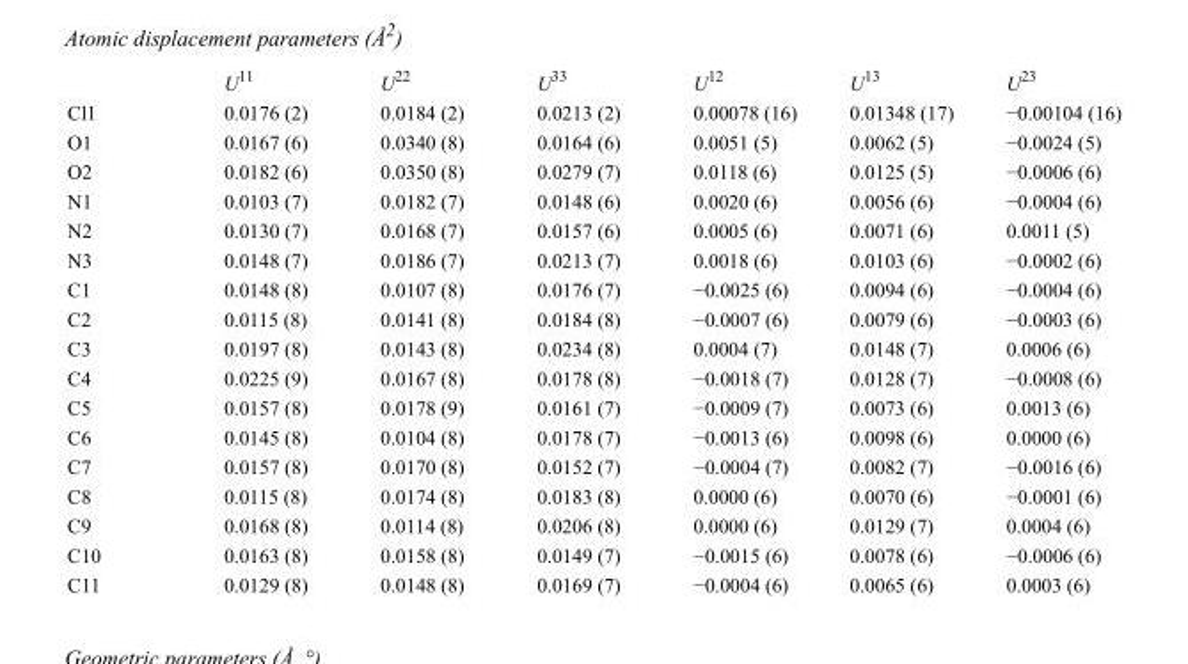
<table><thead><tr><td></td><td>U<sup>11</sup></td><td>U<sup>22</sup></td><td>U<sup>33</sup></td><td>U<sup>12</sup></td><td>U<sup>13</sup></td><td>U<sup>23</sup></td></tr></thead><tbody><tr><td>Cl1</td><td>0.0176 (2)</td><td>0.0184 (2)</td><td>0.0213 (2)</td><td>0.00078 (16)</td><td>0.01348 (17)</td><td>−0.00104 (16)</td></tr><tr><td>O1</td><td>0.0167 (6)</td><td>0.0340 (8)</td><td>0.0164 (6)</td><td>0.0051 (5)</td><td>0.0062 (5)</td><td>−0.0024 (5)</td></tr><tr><td>O2</td><td>0.0182 (6)</td><td>0.0350 (8)</td><td>0.0279 (7)</td><td>0.0118 (6)</td><td>0.0125 (5)</td><td>−0.0006 (6)</td></tr><tr><td>N1</td><td>0.0103 (7)</td><td>0.0182 (7)</td><td>0.0148 (6)</td><td>0.0020 (6)</td><td>0.0056 (6)</td><td>−0.0004 (6)</td></tr><tr><td>N2</td><td>0.0130 (7)</td><td>0.0168 (7)</td><td>0.0157 (6)</td><td>0.0005 (6)</td><td>0.0071 (6)</td><td>0.0011 (5)</td></tr><tr><td>N3</td><td>0.0148 (7)</td><td>0.0186 (7)</td><td>0.0213 (7)</td><td>0.0018 (6)</td><td>0.0103 (6)</td><td>−0.0002 (6)</td></tr><tr><td>C1</td><td>0.0148 (8)</td><td>0.0107 (8)</td><td>0.0176 (7)</td><td>−0.0025 (6)</td><td>0.0094 (6)</td><td>−0.0004 (6)</td></tr><tr><td>C2</td><td>0.0115 (8)</td><td>0.0141 (8)</td><td>0.0184 (8)</td><td>−0.0007 (6)</td><td>0.0079 (6)</td><td>−0.0003 (6)</td></tr><tr><td>C3</td><td>0.0197 (8)</td><td>0.0143 (8)</td><td>0.0234 (8)</td><td>0.0004 (7)</td><td>0.0148 (7)</td><td>0.0006 (6)</td></tr><tr><td>C4</td><td>0.0225 (9)</td><td>0.0167 (8)</td><td>0.0178 (8)</td><td>−0.0018 (7)</td><td>0.0128 (7)</td><td>−0.0008 (6)</td></tr><tr><td>C5</td><td>0.0157 (8)</td><td>0.0178 (9)</td><td>0.0161 (7)</td><td>−0.0009 (7)</td><td>0.0073 (6)</td><td>0.0013 (6)</td></tr><tr><td>C6</td><td>0.0145 (8)</td><td>0.0104 (8)</td><td>0.0178 (7)</td><td>−0.0013 (6)</td><td>0.0098 (6)</td><td>0.0000 (6)</td></tr><tr><td>C7</td><td>0.0157 (8)</td><td>0.0170 (8)</td><td>0.0152 (7)</td><td>−0.0004 (7)</td><td>0.0082 (7)</td><td>−0.0016 (6)</td></tr><tr><td>C8</td><td>0.0115 (8)</td><td>0.0174 (8)</td><td>0.0183 (8)</td><td>0.0000 (6)</td><td>0.0070 (6)</td><td>−0.0001 (6)</td></tr><tr><td>C9</td><td>0.0168 (8)</td><td>0.0114 (8)</td><td>0.0206 (8)</td><td>0.0000 (6)</td><td>0.0129 (7)</td><td>0.0004 (6)</td></tr><tr><td>C10</td><td>0.0163 (8)</td><td>0.0158 (8)</td><td>0.0149 (7)</td><td>−0.0015 (6)</td><td>0.0078 (6)</td><td>−0.0006 (6)</td></tr><tr><td>C11</td><td>0.0129 (8)</td><td>0.0148 (8)</td><td>0.0169 (7)</td><td>−0.0004 (6)</td><td>0.0065 (6)</td><td>0.0003 (6)</td></tr></tbody></table>